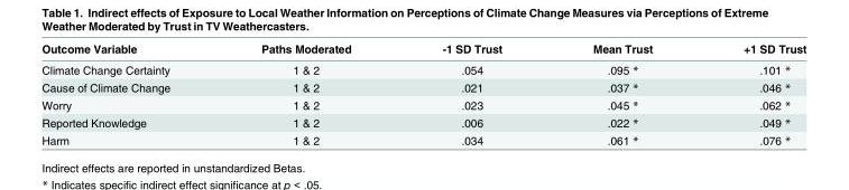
<table><thead><tr><td>Outcome Variable</td><td>Paths Moderated</td><td>-1 SD Trust</td><td>Mean Trust</td><td>+1 SD Trust</td></tr></thead><tbody><tr><td>Climate Change Certainty</td><td>1 &amp; 2</td><td>.054</td><td>.095 *</td><td>.101 *</td></tr><tr><td>Cause of Climate Change</td><td>1 &amp; 2</td><td>.021</td><td>.037 *</td><td>.046 *</td></tr><tr><td>Worry</td><td>1 &amp; 2</td><td>.023</td><td>.045 *</td><td>.062 *</td></tr><tr><td>Reported Knowledge</td><td>1 &amp; 2</td><td>.006</td><td>.022 *</td><td>.049 *</td></tr><tr><td>Harm</td><td>1 &amp; 2</td><td>.034</td><td>.061 *</td><td>.076 *</td></tr></tbody></table>